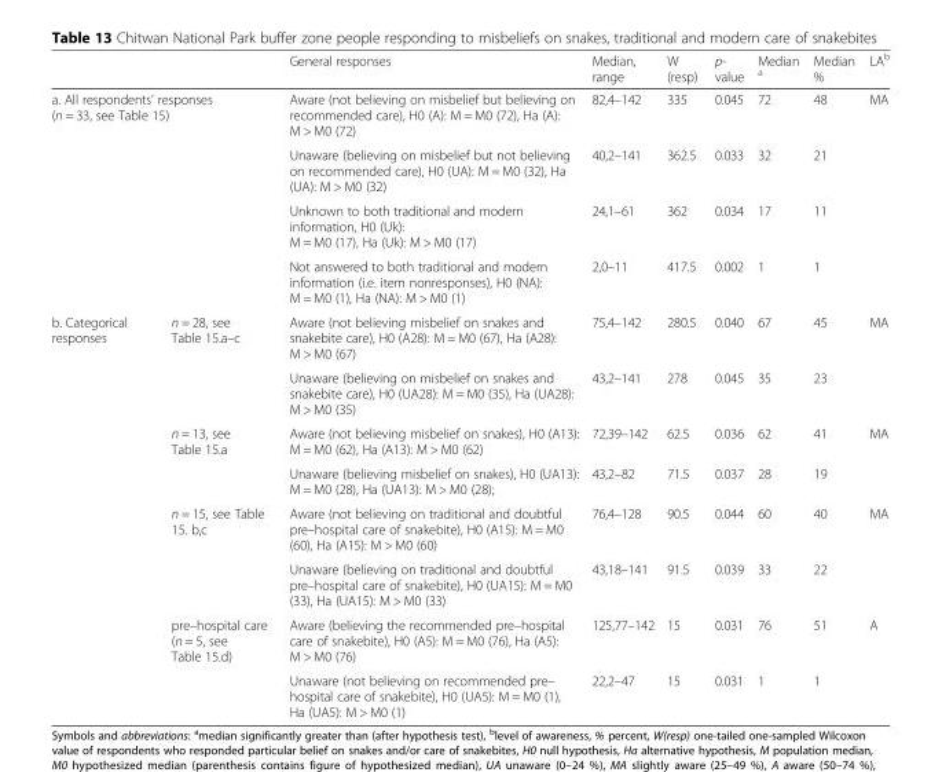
<table><thead><tr><td></td><td></td><td>General responses</td><td>Median, range</td><td>W (resp)</td><td>p- value</td><td>Median <sup>a</sup></td><td>Median %</td><td>LA<sup>b</sup></td></tr></thead><tbody><tr><td rowspan="4" colspan="2">a. All respondents’ responses (n = 33, see Table 15)</td><td>Aware (not believing on misbelief but believing on recommended care), H0 (A): M = M0 (72), Ha (A): M &gt; M0 (72)</td><td>82,4–142</td><td>335</td><td>0.045</td><td>72</td><td>48</td><td>MA</td></tr><tr><td>Unaware (believing on misbelief but not believing on recommended care), H0 (UA): M = M0 (32), Ha (UA): M &gt; M0 (32)</td><td>40,2–141</td><td>362.5</td><td>0.033</td><td>32</td><td>21</td><td></td></tr><tr><td>Unknown to both traditional and modern information, H0 (Uk): M = M0 (17), Ha (Uk): M &gt; M0 (17)</td><td>24,1–61</td><td>362</td><td>0.034</td><td>17</td><td>11</td><td></td></tr><tr><td>Not answered to both traditional and modern information (i.e. item nonresponses), H0 (NA): M = M0 (1), Ha (NA): M &gt; M0 (1)</td><td>2,0–11</td><td>417.5</td><td>0.002</td><td>1</td><td>1</td><td></td></tr><tr><td rowspan="8">b. Categorical responses</td><td rowspan="2">n = 28, see Table 15.a–c</td><td>Aware (not believing misbelief on snakes and snakebite care), H0 (A28): M = M0 (67), Ha (A28): M &gt; M0 (67)</td><td>75,4–142</td><td>280.5</td><td>0.040</td><td>67</td><td>45</td><td>MA</td></tr><tr><td>Unaware (believing on misbelief on snakes and snakebite care), H0 (UA28): M = M0 (35), Ha (UA28): M &gt; M0 (35)</td><td>43,2–141</td><td>278</td><td>0.045</td><td>35</td><td>23</td><td></td></tr><tr><td rowspan="2">n = 13, see Table 15.a</td><td>Aware (not believing misbelief on snakes), H0 (A13): M = M0 (62), Ha (A13): M &gt; M0 (62)</td><td>72,39–142</td><td>62.5</td><td>0.036</td><td>62</td><td>41</td><td>MA</td></tr><tr><td>Unaware (believing misbelief on snakes), H0 (UA13): M = M0 (28), Ha (UA13): M &gt; M0 (28);</td><td>43,2–82</td><td>71.5</td><td>0.037</td><td>28</td><td>19</td><td></td></tr><tr><td rowspan="2">n = 15, see Table 15. b,c</td><td>Aware (not believing on traditional and doubtful pre–hospital care of snakebite), H0 (A15): M = M0 (60), Ha (A15): M &gt; M0 (60)</td><td>76,4–128</td><td>90.5</td><td>0.044</td><td>60</td><td>40</td><td>MA</td></tr><tr><td>Unaware (believing on traditional and doubtful pre–hospital care of snakebite), H0 (UA15): M = M0 (33), Ha (UA15): M &gt; M0 (33)</td><td>43,18–141</td><td>91.5</td><td>0.039</td><td>33</td><td>22</td><td></td></tr><tr><td rowspan="2">pre–hospital care (n = 5, see Table 15.d)</td><td>Aware (believing the recommended pre–hospital care of snakebite), H0 (A5): M = M0 (76), Ha (A5): M &gt; M0 (76)</td><td>125,77–142</td><td>15</td><td>0.031</td><td>76</td><td>51</td><td>A</td></tr><tr><td>Unaware (not believing on recommended pre– hospital care of snakebite), H0 (UA5): M = M0 (1), Ha (UA5): M &gt; M0 (1)</td><td>22,2–47</td><td>15</td><td>0.031</td><td>1</td><td>1</td><td></td></tr></tbody></table>